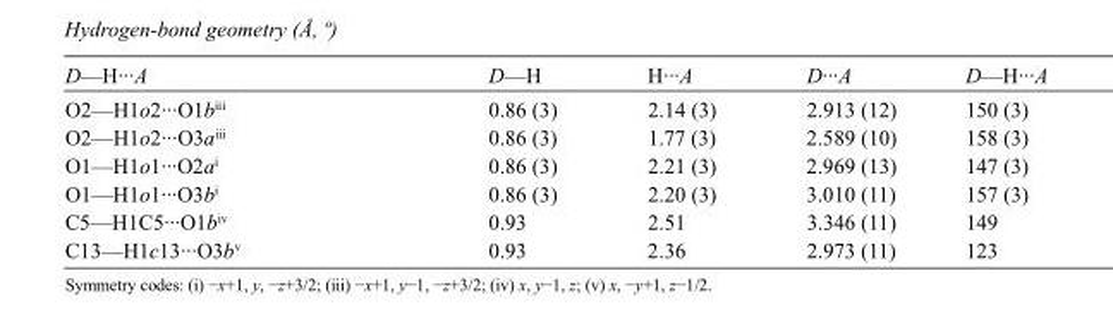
<table><tbody><tr><td>D—H···A</td><td>D—H</td><td>H···A</td><td>D···A</td><td>D—H···A</td></tr><tr><td>O2—H1o2···O1b<sup>iii</sup></td><td>0.86 (3)</td><td>2.14 (3)</td><td>2.913 (12)</td><td>150 (3)</td></tr><tr><td>O2—H1o2···O3a<sup>iii</sup></td><td>0.86 (3)</td><td>1.77 (3)</td><td>2.589 (10)</td><td>158 (3)</td></tr><tr><td>O1—H1o1···O2a<sup>i</sup></td><td>0.86 (3)</td><td>2.21 (3)</td><td>2.969 (13)</td><td>147 (3)</td></tr><tr><td>O1—H1o1···O3b<sup>i</sup></td><td>0.86 (3)</td><td>2.20 (3)</td><td>3.010 (11)</td><td>157 (3)</td></tr><tr><td>C5—H1C5···O1b<sup>iv</sup></td><td>0.93</td><td>2.51</td><td>3.346 (11)</td><td>149</td></tr><tr><td>C13—H1c13···O3b<sup>v</sup></td><td>0.93</td><td>2.36</td><td>2.973 (11)</td><td>123</td></tr></tbody></table>